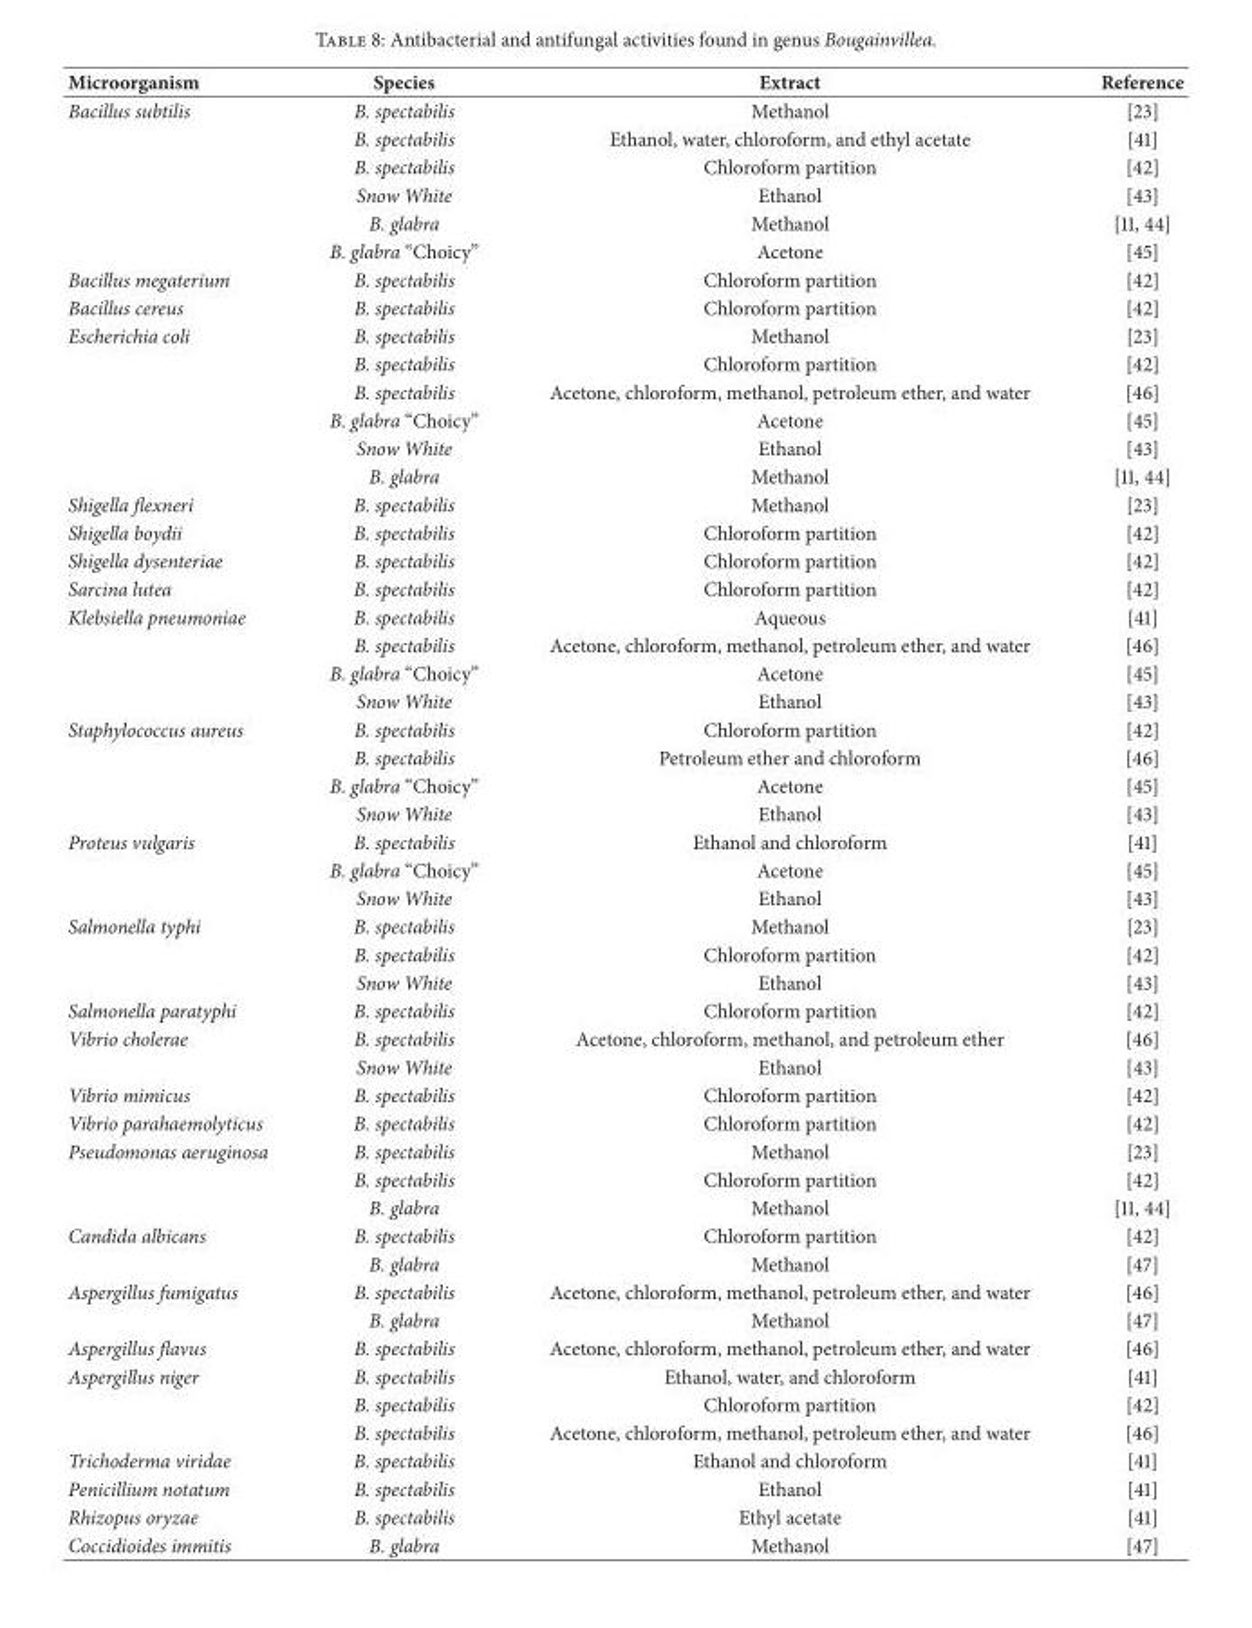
<table><thead><tr><td>Microorganism</td><td>Species</td><td>Extract</td><td>Reference</td></tr></thead><tbody><tr><td rowspan="6">Bacillus subtilis</td><td>B. spectabilis</td><td>Methanol</td><td>[23]</td></tr><tr><td>B. spectabilis</td><td>Ethanol, water, chloroform, and ethyl acetate</td><td>[41]</td></tr><tr><td>B. spectabilis</td><td>Chloroform partition</td><td>[42]</td></tr><tr><td>Snow White</td><td>Ethanol</td><td>[43]</td></tr><tr><td>B. glabra</td><td>Methanol</td><td>[11, 44]</td></tr><tr><td>B. glabra “Choicy”</td><td>Acetone</td><td>[45]</td></tr><tr><td>Bacillus megaterium</td><td>B. spectabilis</td><td>Chloroform partition</td><td>[42]</td></tr><tr><td>Bacillus cereus</td><td>B. spectabilis</td><td>Chloroform partition</td><td>[42]</td></tr><tr><td rowspan="6">Escherichia coli</td><td>B. spectabilis</td><td>Methanol</td><td>[23]</td></tr><tr><td>B. spectabilis</td><td>Chloroform partition</td><td>[42]</td></tr><tr><td>B. spectabilis</td><td>Acetone, chloroform, methanol, petroleum ether, and water</td><td>[46]</td></tr><tr><td>B. glabra “Choicy”</td><td>Acetone</td><td>[45]</td></tr><tr><td>Snow White</td><td>Ethanol</td><td>[43]</td></tr><tr><td>B. glabra</td><td>Methanol</td><td>[11, 44]</td></tr><tr><td>Shigella flexneri</td><td>B. spectabilis</td><td>Methanol</td><td>[23]</td></tr><tr><td>Shigella boydii</td><td>B. spectabilis</td><td>Chloroform partition</td><td>[42]</td></tr><tr><td>Shigella dysenteriae</td><td>B. spectabilis</td><td>Chloroform partition</td><td>[42]</td></tr><tr><td>Sarcina lutea</td><td>B. spectabilis</td><td>Chloroform partition</td><td>[42]</td></tr><tr><td rowspan="4">Klebsiella pneumoniae</td><td>B. spectabilis</td><td>Aqueous</td><td>[41]</td></tr><tr><td>B. spectabilis</td><td>Acetone, chloroform, methanol, petroleum ether, and water</td><td>[46]</td></tr><tr><td>B. glabra “Choicy”</td><td>Acetone</td><td>[45]</td></tr><tr><td>Snow White</td><td>Ethanol</td><td>[43]</td></tr><tr><td rowspan="4">Staphylococcus aureus</td><td>B. spectabilis</td><td>Chloroform partition</td><td>[42]</td></tr><tr><td>B. spectabilis</td><td>Petroleum ether and chloroform</td><td>[46]</td></tr><tr><td>B. glabra “Choicy”</td><td>Acetone</td><td>[45]</td></tr><tr><td>Snow White</td><td>Ethanol</td><td>[43]</td></tr><tr><td rowspan="3">Proteus vulgaris</td><td>B. spectabilis</td><td>Ethanol and chloroform</td><td>[41]</td></tr><tr><td>B. glabra “Choicy”</td><td>Acetone</td><td>[45]</td></tr><tr><td>Snow White</td><td>Ethanol</td><td>[43]</td></tr><tr><td rowspan="3">Salmonella typhi</td><td>B. spectabilis</td><td>Methanol</td><td>[23]</td></tr><tr><td>B. spectabilis</td><td>Chloroform partition</td><td>[42]</td></tr><tr><td>Snow White</td><td>Ethanol</td><td>[43]</td></tr><tr><td>Salmonella paratyphi</td><td>B. spectabilis</td><td>Chloroform partition</td><td>[42]</td></tr><tr><td rowspan="2">Vibrio cholerae</td><td>B. spectabilis</td><td>Acetone, chloroform, methanol, and petroleum ether</td><td>[46]</td></tr><tr><td>Snow White</td><td>Ethanol</td><td>[43]</td></tr><tr><td>Vibrio mimicus</td><td>B. spectabilis</td><td>Chloroform partition</td><td>[42]</td></tr><tr><td>Vibrio parahaemolyticus</td><td>B. spectabilis</td><td>Chloroform partition</td><td>[42]</td></tr><tr><td rowspan="3">Pseudomonas aeruginosa</td><td>B. spectabilis</td><td>Methanol</td><td>[23]</td></tr><tr><td>B. spectabilis</td><td>Chloroform partition</td><td>[42]</td></tr><tr><td>B. glabra</td><td>Methanol</td><td>[11, 44]</td></tr><tr><td rowspan="2">Candida albicans</td><td>B. spectabilis</td><td>Chloroform partition</td><td>[42]</td></tr><tr><td>B. glabra</td><td>Methanol</td><td>[47]</td></tr><tr><td rowspan="2">Aspergillus fumigatus</td><td>B. spectabilis</td><td>Acetone, chloroform, methanol, petroleum ether, and water</td><td>[46]</td></tr><tr><td>B. glabra</td><td>Methanol</td><td>[47]</td></tr><tr><td>Aspergillus flavus</td><td>B. spectabilis</td><td>Acetone, chloroform, methanol, petroleum ether, and water</td><td>[46]</td></tr><tr><td rowspan="3">Aspergillus niger</td><td>B. spectabilis</td><td>Ethanol, water, and chloroform</td><td>[41]</td></tr><tr><td>B. spectabilis</td><td>Chloroform partition</td><td>[42]</td></tr><tr><td>B. spectabilis</td><td>Acetone, chloroform, methanol, petroleum ether, and water</td><td>[46]</td></tr><tr><td>Trichoderma viridae</td><td>B. spectabilis</td><td>Ethanol and chloroform</td><td>[41]</td></tr><tr><td>Penicillium notatum</td><td>B. spectabilis</td><td>Ethanol</td><td>[41]</td></tr><tr><td>Rhizopus oryzae</td><td>B. spectabilis</td><td>Ethyl acetate</td><td>[41]</td></tr><tr><td>Coccidioides immitis</td><td>B. glabra</td><td>Methanol</td><td>[47]</td></tr></tbody></table>